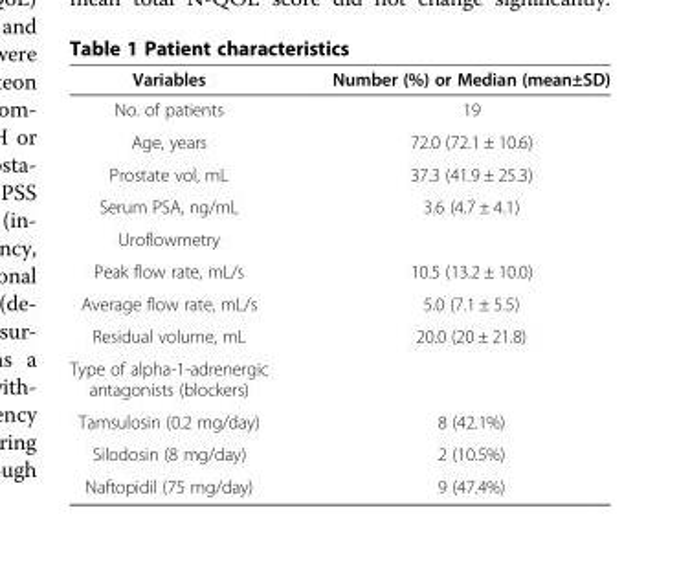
<table><thead><tr><td>Variables</td><td>Number (%) or Median (mean±SD)</td></tr></thead><tbody><tr><td>No. of patients</td><td>19</td></tr><tr><td>Age, years</td><td>72.0 (72.1 ± 10.6)</td></tr><tr><td>Prostate vol, mL</td><td>37.3 (41.9 ± 25.3)</td></tr><tr><td>Serum PSA, ng/mL</td><td>3.6 (4.7 ± 4.1)</td></tr><tr><td colspan="2">Uroflowmetry</td></tr><tr><td>Peak flow rate, mL/s</td><td>10.5 (13.2 ± 10.0)</td></tr><tr><td>Average flow rate, mL/s</td><td>5.0 (7.1 ± 5.5)</td></tr><tr><td>Residual volume, mL</td><td>20.0 (20 ± 21.8)</td></tr><tr><td colspan="2">Type of alpha-1-adrenergic antagonists (blockers)</td></tr><tr><td>Tamsulosin (0.2 mg/day)</td><td>8 (42.1%)</td></tr><tr><td>Silodosin (8 mg/day)</td><td>2 (10.5%)</td></tr><tr><td>Naftopidil (75 mg/day)</td><td>9 (47.4%)</td></tr></tbody></table>